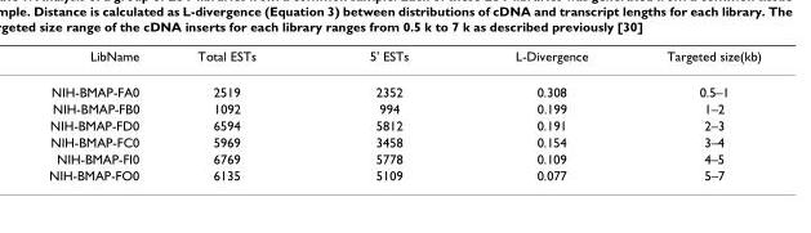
<table><thead><tr><td>LibName</td><td>Total ESTs</td><td>5&#x27; ESTs</td><td>L-Divergence</td><td>Targeted size(kb)</td></tr></thead><tbody><tr><td>NIH-BMAP-FA0</td><td>2519</td><td>2352</td><td>0.308</td><td>0.5–1</td></tr><tr><td>NIH-BMAP-FB0</td><td>1092</td><td>994</td><td>0.199</td><td>1–2</td></tr><tr><td>NIH-BMAP-FD0</td><td>6594</td><td>5812</td><td>0.191</td><td>2–3</td></tr><tr><td>NIH-BMAP-FC0</td><td>5969</td><td>3458</td><td>0.154</td><td>3–4</td></tr><tr><td>NIH-BMAP-FI0</td><td>6769</td><td>5778</td><td>0.109</td><td>4–5</td></tr><tr><td>NIH-BMAP-FO0</td><td>6135</td><td>5109</td><td>0.077</td><td>5–7</td></tr></tbody></table>